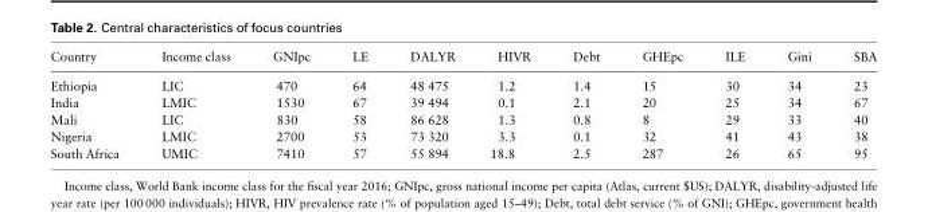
<table><thead><tr><td>Country</td><td>Income class</td><td>GNIpc</td><td>LE</td><td>DALYR</td><td>HIVR</td><td>Debt</td><td>GHEpc</td><td>ILE</td><td>Gini</td><td>SBA</td></tr></thead><tbody><tr><td>Ethiopia</td><td>LIC</td><td>470</td><td>64</td><td>48 475</td><td>1.2</td><td>1.4</td><td>15</td><td>30</td><td>34</td><td>23</td></tr><tr><td>India</td><td>LMIC</td><td>1530</td><td>67</td><td>39 494</td><td>0.1</td><td>2.1</td><td>20</td><td>25</td><td>34</td><td>67</td></tr><tr><td>Mali</td><td>LIC</td><td>830</td><td>58</td><td>86 628</td><td>1.3</td><td>0.8</td><td>8</td><td>29</td><td>33</td><td>40</td></tr><tr><td>Nigeria</td><td>LMIC</td><td>2700</td><td>53</td><td>73 320</td><td>3.3</td><td>0.1</td><td>32</td><td>41</td><td>43</td><td>38</td></tr><tr><td>South Africa</td><td>UMIC</td><td>7410</td><td>57</td><td>55 894</td><td>18.8</td><td>2.5</td><td>287</td><td>26</td><td>65</td><td>95</td></tr></tbody></table>